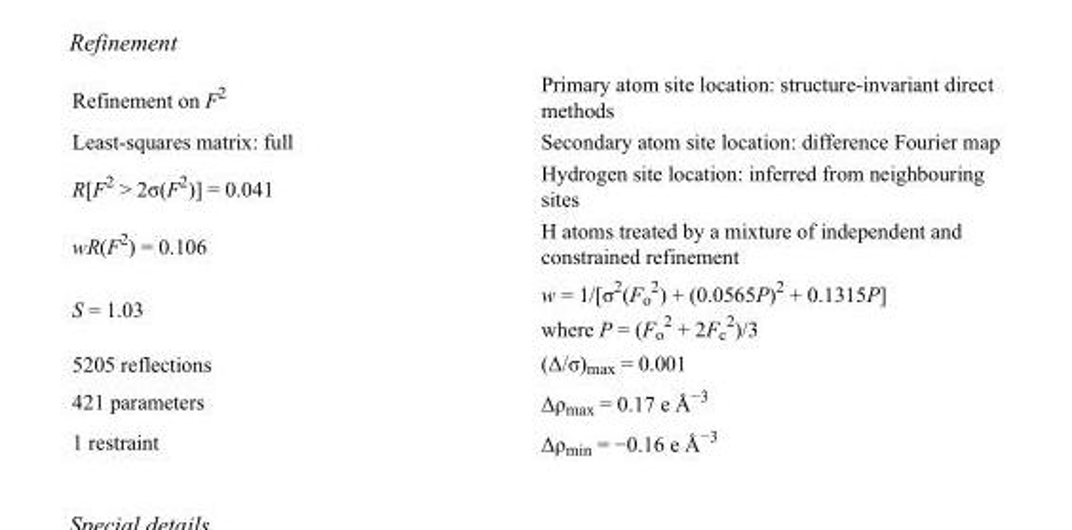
<table><tbody><tr><td>Refinement on F<sup>2</sup></td><td>Primary atom site location: structure-invariant direct methods</td></tr><tr><td>Least-squares matrix: full</td><td>Secondary atom site location: difference Fourier map</td></tr><tr><td>R[F<sup>2</sup> &gt; 2σ(F<sup>2</sup>)] = 0.041</td><td>Hydrogen site location: inferred from neighbouring sites</td></tr><tr><td>wR(F<sup>2</sup>) = 0.106</td><td>H atoms treated by a mixture of independent and constrained refinement</td></tr><tr><td>S = 1.03</td><td>w = 1/[σ<sup>2</sup>(F<sub>o</sub> <sup>2</sup>) + (0.0565P)<sup>2</sup> + 0.1315P] where P = (F<sub>o</sub> <sup>2</sup> + 2F<sub>c</sub> <sup>2</sup>)/3</td></tr><tr><td>5205 reflections</td><td>(Δ/σ)<sub>max</sub> = 0.001</td></tr><tr><td>421 parameters</td><td>Δρ<sub>max</sub> = 0.17 e Å<sup>−3</sup></td></tr><tr><td>1 restraint</td><td>Δρ<sub>min</sub> = −0.16 e Å<sup>−3</sup></td></tr></tbody></table>